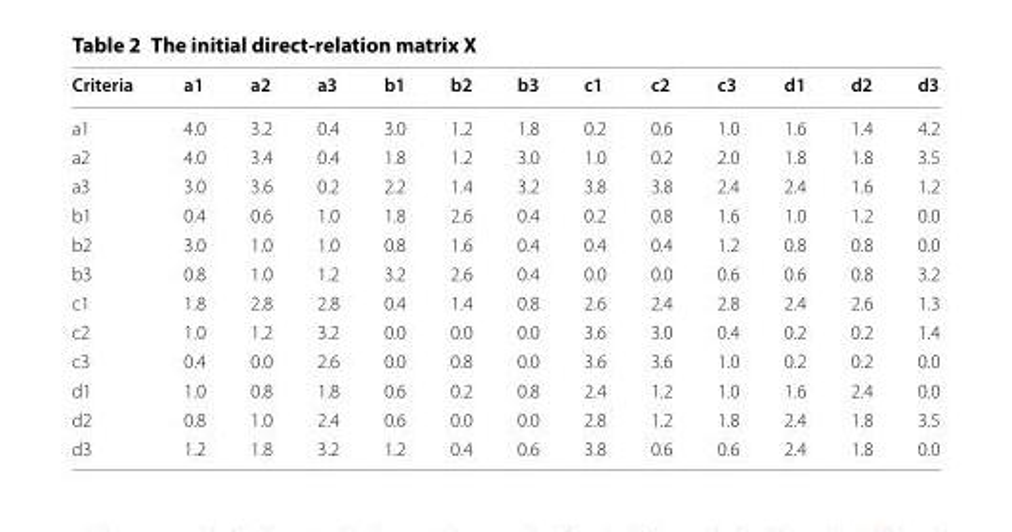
<table><thead><tr><td>Criteria</td><td>a1</td><td>a2</td><td>a3</td><td>b1</td><td>b2</td><td>b3</td><td>c1</td><td>c2</td><td>c3</td><td>d1</td><td>d2</td><td>d3</td></tr></thead><tbody><tr><td>a1</td><td>4.0</td><td>3.2</td><td>0.4</td><td>3.0</td><td>1.2</td><td>1.8</td><td>0.2</td><td>0.6</td><td>1.0</td><td>1.6</td><td>1.4</td><td>4.2</td></tr><tr><td>a2</td><td>4.0</td><td>3.4</td><td>0.4</td><td>1.8</td><td>1.2</td><td>3.0</td><td>1.0</td><td>0.2</td><td>2.0</td><td>1.8</td><td>1.8</td><td>3.5</td></tr><tr><td>a3</td><td>3.0</td><td>3.6</td><td>0.2</td><td>2.2</td><td>1.4</td><td>3.2</td><td>3.8</td><td>3.8</td><td>2.4</td><td>2.4</td><td>1.6</td><td>1.2</td></tr><tr><td>b1</td><td>0.4</td><td>0.6</td><td>1.0</td><td>1.8</td><td>2.6</td><td>0.4</td><td>0.2</td><td>0.8</td><td>1.6</td><td>1.0</td><td>1.2</td><td>0.0</td></tr><tr><td>b2</td><td>3.0</td><td>1.0</td><td>1.0</td><td>0.8</td><td>1.6</td><td>0.4</td><td>0.4</td><td>0.4</td><td>1.2</td><td>0.8</td><td>0.8</td><td>0.0</td></tr><tr><td>b3</td><td>0.8</td><td>1.0</td><td>1.2</td><td>3.2</td><td>2.6</td><td>0.4</td><td>0.0</td><td>0.0</td><td>0.6</td><td>0.6</td><td>0.8</td><td>3.2</td></tr><tr><td>c1</td><td>1.8</td><td>2.8</td><td>2.8</td><td>0.4</td><td>1.4</td><td>0.8</td><td>2.6</td><td>2.4</td><td>2.8</td><td>2.4</td><td>2.6</td><td>1.3</td></tr><tr><td>c2</td><td>1.0</td><td>1.2</td><td>3.2</td><td>0.0</td><td>0.0</td><td>0.0</td><td>3.6</td><td>3.0</td><td>0.4</td><td>0.2</td><td>0.2</td><td>1.4</td></tr><tr><td>c3</td><td>0.4</td><td>0.0</td><td>2.6</td><td>0.0</td><td>0.8</td><td>0.0</td><td>3.6</td><td>3.6</td><td>1.0</td><td>0.2</td><td>0.2</td><td>0.0</td></tr><tr><td>d1</td><td>1.0</td><td>0.8</td><td>1.8</td><td>0.6</td><td>0.2</td><td>0.8</td><td>2.4</td><td>1.2</td><td>1.0</td><td>1.6</td><td>2.4</td><td>0.0</td></tr><tr><td>d2</td><td>0.8</td><td>1.0</td><td>2.4</td><td>0.6</td><td>0.0</td><td>0.0</td><td>2.8</td><td>1.2</td><td>1.8</td><td>2.4</td><td>1.8</td><td>3.5</td></tr><tr><td>d3</td><td>1.2</td><td>1.8</td><td>3.2</td><td>1.2</td><td>0.4</td><td>0.6</td><td>3.8</td><td>0.6</td><td>0.6</td><td>2.4</td><td>1.8</td><td>0.0</td></tr></tbody></table>